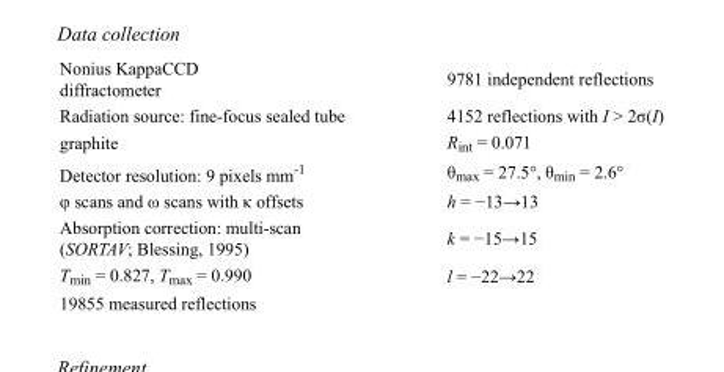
<table><tbody><tr><td>Nonius KappaCCD diffractometer</td><td>9781 independent reflections</td></tr><tr><td>Radiation source: fine-focus sealed tube</td><td>4152 reflections with I &gt; 2σ(I)</td></tr><tr><td>graphite</td><td>R<sub>int</sub> = 0.071</td></tr><tr><td>Detector resolution: 9 pixels mm<sup>-1</sup></td><td>θ<sub>max</sub> = 27.5°, θ<sub>min</sub> = 2.6°</td></tr><tr><td>φ scans and ω scans with κ offsets</td><td>h = −13→13</td></tr><tr><td>Absorption correction: multi-scan (SORTAV; Blessing, 1995)</td><td>k = −15→15</td></tr><tr><td>T<sub>min</sub> = 0.827, T<sub>max</sub> = 0.990</td><td>l = −22→22</td></tr><tr><td>19855 measured reflections</td><td></td></tr></tbody></table>